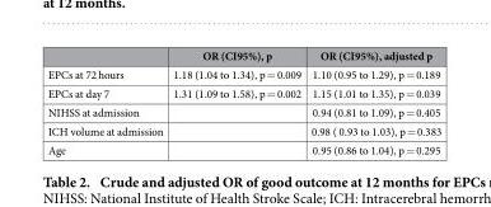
<table><thead><tr><td></td><td>OR (CI95%), p</td><td>OR (CI95%), adjusted p</td></tr></thead><tbody><tr><td>EPCs at 72 hours</td><td>1.18 (1.04 to 1.34), p = 0.009</td><td>1.10 (0.95 to 1.29), p = 0.189</td></tr><tr><td>EPCs at day 7</td><td>1.31 (1.09 to 1.58), p = 0.002</td><td>1.15 (1.01 to 1.35), p = 0.039</td></tr><tr><td>NIHSS at admission</td><td></td><td>0.94 (0.81 to 1.09), p = 0.405</td></tr><tr><td>ICH volume at admission</td><td></td><td>0.98 ( 0.93 to 1.03), p = 0.383</td></tr><tr><td>Age</td><td></td><td>0.95 (0.86 to 1.04), p = 0.295</td></tr></tbody></table>